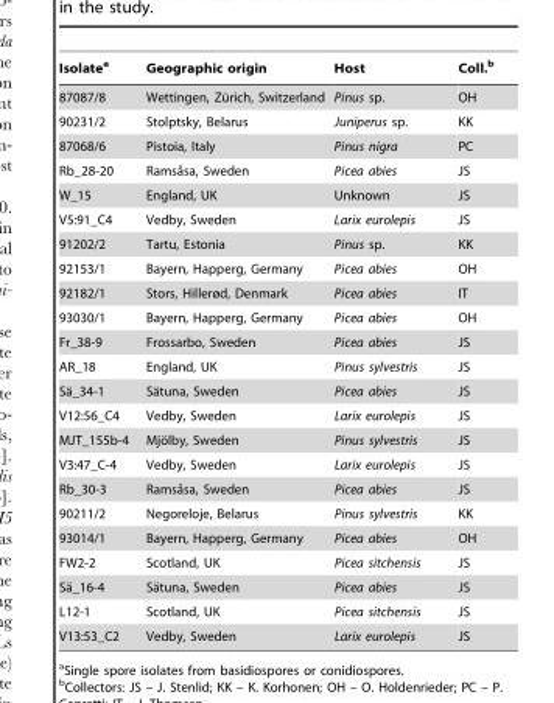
<table><thead><tr><td>Isolate<sup>a</sup></td><td>Geographic origin</td><td>Host</td><td>Coll.<sup>b</sup></td></tr></thead><tbody><tr><td>87087/8</td><td>Wettingen, Zu¨rich, Switzerland</td><td>Pinus sp.</td><td>OH</td></tr><tr><td>90231/2</td><td>Stolptsky, Belarus</td><td>Juniperus sp.</td><td>KK</td></tr><tr><td>87068/6</td><td>Pistoia, Italy</td><td>Pinus nigra</td><td>PC</td></tr><tr><td>Rb_28-20</td><td>Ramsa˚sa, Sweden</td><td>Picea abies</td><td>JS</td></tr><tr><td>W_15</td><td>England, UK</td><td>Unknown</td><td>JS</td></tr><tr><td>V5:91_C4</td><td>Vedby, Sweden</td><td>Larix eurolepis</td><td>JS</td></tr><tr><td>91202/2</td><td>Tartu, Estonia</td><td>Pinus sp.</td><td>KK</td></tr><tr><td>92153/1</td><td>Bayern, Happerg, Germany</td><td>Picea abies</td><td>OH</td></tr><tr><td>92182/1</td><td>Stors, Hillerød, Denmark</td><td>Picea abies</td><td>IT</td></tr><tr><td>93030/1</td><td>Bayern, Happerg, Germany</td><td>Picea abies</td><td>OH</td></tr><tr><td>Fr_38-9</td><td>Frossarbo, Sweden</td><td>Picea abies</td><td>JS</td></tr><tr><td>AR_18</td><td>England, UK</td><td>Pinus sylvestris</td><td>JS</td></tr><tr><td>Sa¨_34-1</td><td>Sa¨tuna, Sweden</td><td>Picea abies</td><td>JS</td></tr><tr><td>V12:56_C4</td><td>Vedby, Sweden</td><td>Larix eurolepis</td><td>JS</td></tr><tr><td>MJT_155b-4</td><td>Mjo¨lby, Sweden</td><td>Pinus sylvestris</td><td>JS</td></tr><tr><td>V3:47_C-4</td><td>Vedby, Sweden</td><td>Larix eurolepis</td><td>JS</td></tr><tr><td>Rb_30-3</td><td>Ramsa˚sa, Sweden</td><td>Picea abies</td><td>JS</td></tr><tr><td>90211/2</td><td>Negoreloje, Belarus</td><td>Pinus sylvestris</td><td>KK</td></tr><tr><td>93014/1</td><td>Bayern, Happerg, Germany</td><td>Picea abies</td><td>OH</td></tr><tr><td>FW2-2</td><td>Scotland, UK</td><td>Picea sitchensis</td><td>JS</td></tr><tr><td>Sa¨_16-4</td><td>Sa¨tuna, Sweden</td><td>Picea abies</td><td>JS</td></tr><tr><td>L12-1</td><td>Scotland, UK</td><td>Picea sitchensis</td><td>JS</td></tr><tr><td>V13:53_C2</td><td>Vedby, Sweden</td><td>Larix eurolepis</td><td>JS</td></tr></tbody></table>